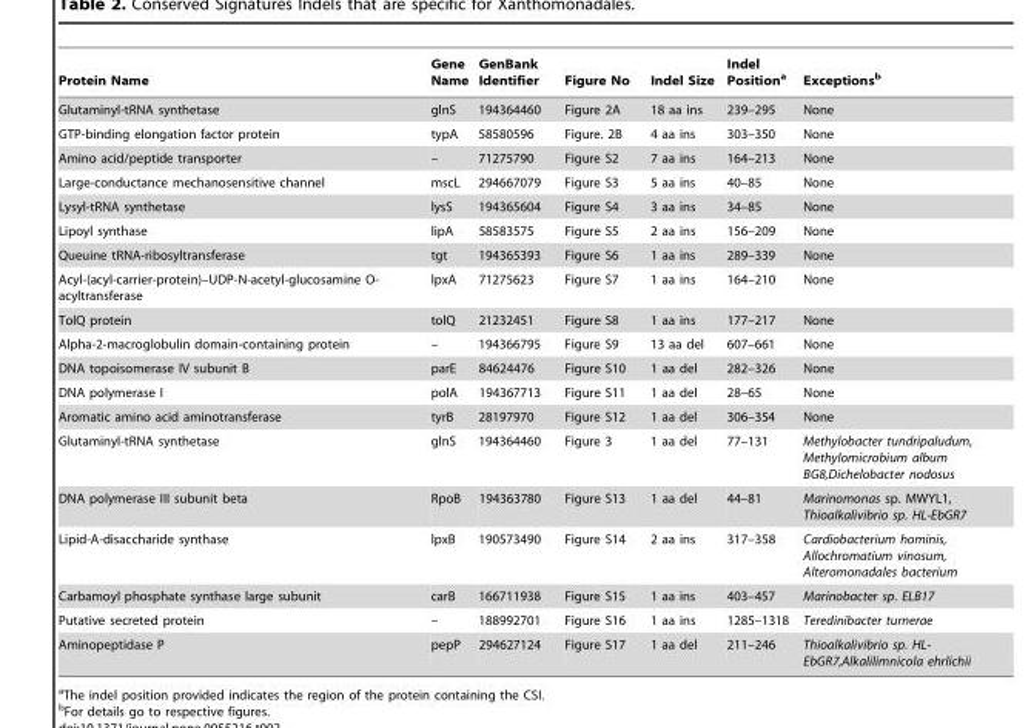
<table><thead><tr><td>Protein Name</td><td>Gene Name</td><td>GenBank Identifier</td><td>Figure No</td><td>Indel Size</td><td>Indel Position<sup>a</sup></td><td>Exceptions<sup>b</sup></td></tr></thead><tbody><tr><td>Glutaminyl-tRNA synthetase</td><td>glnS</td><td>194364460</td><td>Figure 2A</td><td>18 aa ins</td><td>239–295</td><td>None</td></tr><tr><td>GTP-binding elongation factor protein</td><td>typA</td><td>58580596</td><td>Figure. 2B</td><td>4 aa ins</td><td>303–350</td><td>None</td></tr><tr><td>Amino acid/peptide transporter</td><td>–</td><td>71275790</td><td>Figure S2</td><td>7 aa ins</td><td>164–213</td><td>None</td></tr><tr><td>Large-conductance mechanosensitive channel</td><td>mscL</td><td>294667079</td><td>Figure S3</td><td>5 aa ins</td><td>40–85</td><td>None</td></tr><tr><td>Lysyl-tRNA synthetase</td><td>lysS</td><td>194365604</td><td>Figure S4</td><td>3 aa ins</td><td>34–85</td><td>None</td></tr><tr><td>Lipoyl synthase</td><td>lipA</td><td>58583575</td><td>Figure S5</td><td>2 aa ins</td><td>156–209</td><td>None</td></tr><tr><td>Queuine tRNA-ribosyltransferase</td><td>tgt</td><td>194365393</td><td>Figure S6</td><td>1 aa ins</td><td>289–339</td><td>None</td></tr><tr><td>Acyl-(acyl-carrier-protein)–UDP-N-acetyl-glucosamine O- acyltransferase</td><td>lpxA</td><td>71275623</td><td>Figure S7</td><td>1 aa ins</td><td>164–210</td><td>None</td></tr><tr><td>TolQ protein</td><td>tolQ</td><td>21232451</td><td>Figure S8</td><td>1 aa ins</td><td>177–217</td><td>None</td></tr><tr><td>Alpha-2-macroglobulin domain-containing protein</td><td>–</td><td>194366795</td><td>Figure S9</td><td>13 aa del</td><td>607–661</td><td>None</td></tr><tr><td>DNA topoisomerase IV subunit B</td><td>parE</td><td>84624476</td><td>Figure S10</td><td>1 aa del</td><td>282–326</td><td>None</td></tr><tr><td>DNA polymerase I</td><td>polA</td><td>194367713</td><td>Figure S11</td><td>1 aa del</td><td>28–65</td><td>None</td></tr><tr><td>Aromatic amino acid aminotransferase</td><td>tyrB</td><td>28197970</td><td>Figure S12</td><td>1 aa del</td><td>306–354</td><td>None</td></tr><tr><td>Glutaminyl-tRNA synthetase</td><td>glnS</td><td>194364460</td><td>Figure 3</td><td>1 aa del</td><td>77–131</td><td>Methylobacter tundripaludum, Methylomicrobium album BG8,Dichelobacter nodosus</td></tr><tr><td>DNA polymerase III subunit beta</td><td>RpoB</td><td>194363780</td><td>Figure S13</td><td>1 aa del</td><td>44–81</td><td>Marinomonas sp. MWYL1, Thioalkalivibrio sp. HL-EbGR7</td></tr><tr><td>Lipid-A-disaccharide synthase</td><td>lpxB</td><td>190573490</td><td>Figure S14</td><td>2 aa ins</td><td>317–358</td><td>Cardiobacterium hominis, Allochromatium vinosum, Alteromonadales bacterium</td></tr><tr><td>Carbamoyl phosphate synthase large subunit</td><td>carB</td><td>166711938</td><td>Figure S15</td><td>1 aa ins</td><td>403–457</td><td>Marinobacter sp. ELB17</td></tr><tr><td>Putative secreted protein</td><td>–</td><td>188992701</td><td>Figure S16</td><td>1 aa ins</td><td>1285–1318</td><td>Teredinibacter turnerae</td></tr><tr><td>Aminopeptidase P</td><td>pepP</td><td>294627124</td><td>Figure S17</td><td>1 aa del</td><td>211–246</td><td>Thioalkalivibrio sp. HL- EbGR7,Alkalilimnicola ehrlichii</td></tr></tbody></table>